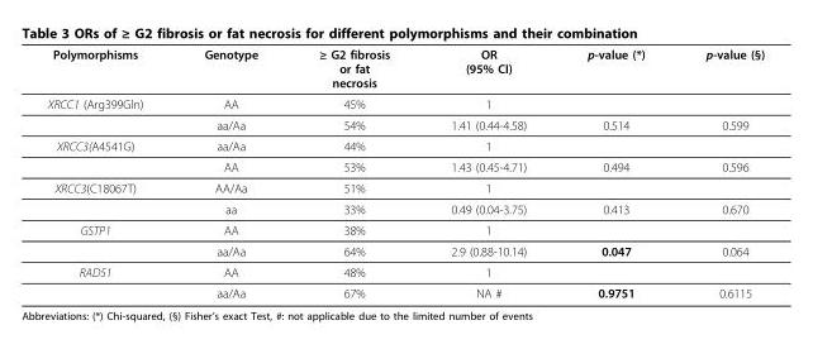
<table><thead><tr><td>Polymorphisms</td><td>Genotype</td><td>≥ G2 fibrosis or fat necrosis</td><td>OR (95% CI)</td><td>p-value (*)</td><td>p-value (§)</td></tr></thead><tbody><tr><td rowspan="2">XRCC1 (Arg399Gln)</td><td>AA</td><td>45%</td><td>1</td><td></td><td></td></tr><tr><td>aa/Aa</td><td>54%</td><td>1.41 (0.44-4.58)</td><td>0.514</td><td>0.599</td></tr><tr><td rowspan="2">XRCC3(A4541G)</td><td>aa/Aa</td><td>44%</td><td>1</td><td></td><td></td></tr><tr><td>AA</td><td>53%</td><td>1.43 (0.45-4.71)</td><td>0.494</td><td>0.596</td></tr><tr><td rowspan="2">XRCC3(C18067T)</td><td>AA/Aa</td><td>51%</td><td>1</td><td></td><td></td></tr><tr><td>aa</td><td>33%</td><td>0.49 (0.04-3.75)</td><td>0.413</td><td>0.670</td></tr><tr><td rowspan="2">GSTP1</td><td>AA</td><td>38%</td><td>1</td><td></td><td></td></tr><tr><td>aa/Aa</td><td>64%</td><td>2.9 (0.88-10.14)</td><td>0.047</td><td>0.064</td></tr><tr><td rowspan="2">RAD51</td><td>AA</td><td>48%</td><td>1</td><td></td><td></td></tr><tr><td>aa/Aa</td><td>67%</td><td>NA #</td><td>0.9751</td><td>0.6115</td></tr></tbody></table>